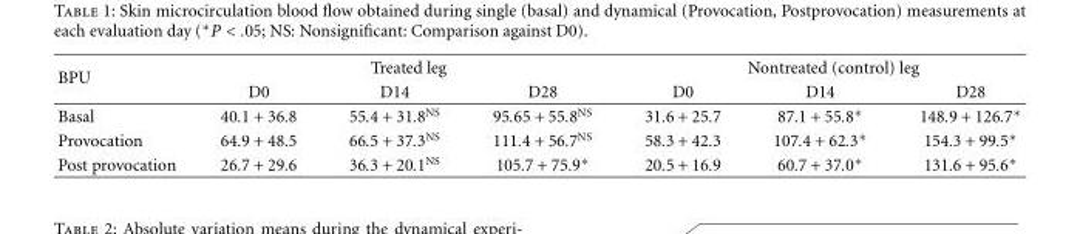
<table><thead><tr><td rowspan="2">BPU</td><td colspan="3">Treated leg</td><td colspan="3">Nontreated (control) leg</td></tr><tr><td>D0</td><td>D14</td><td>D28</td><td>D0</td><td>D14</td><td>D28</td></tr></thead><tbody><tr><td>Basal</td><td>40.1 + 36.8</td><td>55.4 + 31.8<sup>NS</sup></td><td>95.65 + 55.8<sup>NS</sup></td><td>31.6 + 25.7</td><td>87.1 + 55.8∗</td><td>148.9 + 126.7∗</td></tr><tr><td>Provocation</td><td>64.9 + 48.5</td><td>66.5 + 37.3<sup>NS</sup></td><td>111.4 + 56.7<sup>NS</sup></td><td>58.3 + 42.3</td><td>107.4 + 62.3∗</td><td>154.3 + 99.5∗</td></tr><tr><td>Post provocation</td><td>26.7 + 29.6</td><td>36.3 + 20.1<sup>NS</sup></td><td>105.7 + 75.9∗</td><td>20.5 + 16.9</td><td>60.7 + 37.0∗</td><td>131.6 + 95.6∗</td></tr></tbody></table>